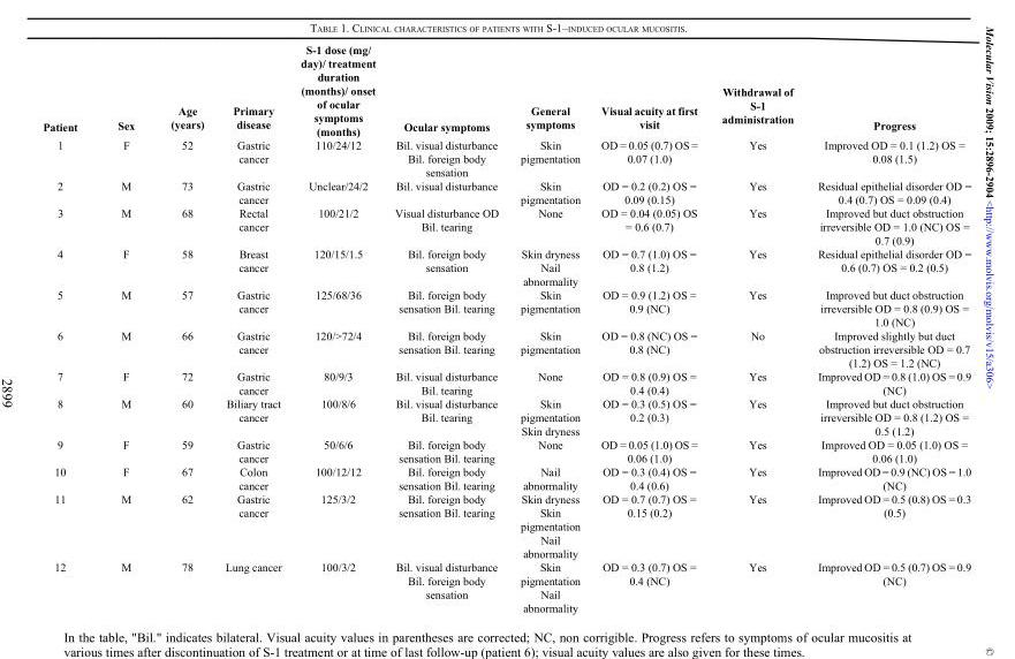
<table><thead><tr><td>Patient</td><td>Sex</td><td>Age (years)</td><td>Primary disease</td><td>S-1 dose (mg/ day)/ treatment duration (months)/ onset of ocular symptoms (months)</td><td>Ocular symptoms</td><td>General symptoms</td><td>Visual acuity at first visit</td><td>Withdrawal of S-1 administration</td><td>Progress</td></tr></thead><tbody><tr><td>1</td><td>F</td><td>52</td><td>Gastric cancer</td><td>110/24/12</td><td>Bil. visual disturbance Bil. foreign body sensation</td><td>Skin pigmentation</td><td>OD = 0.05 (0.7) OS = 0.07 (1.0)</td><td>Yes</td><td>Improved OD = 0.1 (1.2) OS = 0.08 (1.5)</td></tr><tr><td>2</td><td>M</td><td>73</td><td>Gastric cancer</td><td>Unclear/24/2</td><td>Bil. visual disturbance</td><td>Skin pigmentation</td><td>OD = 0.2 (0.2) OS = 0.09 (0.15)</td><td>Yes</td><td>Residual epithelial disorder OD = 0.4 (0.7) OS = 0.09 (0.4)</td></tr><tr><td>3</td><td>M</td><td>68</td><td>Rectal cancer</td><td>100/21/2</td><td>Visual disturbance OD Bil. tearing</td><td>None</td><td>OD = 0.04 (0.05) OS = 0.6 (0.7)</td><td>Yes</td><td>Improved but duct obstruction irreversible OD = 1.0 (NC) OS = 0.7 (0.9)</td></tr><tr><td>4</td><td>F</td><td>58</td><td>Breast cancer</td><td>120/15/1.5</td><td>Bil. foreign body sensation</td><td>Skin dryness Nail abnormality</td><td>OD = 0.7 (1.0) OS = 0.8 (1.2)</td><td>Yes</td><td>Residual epithelial disorder OD = 0.6 (0.7) OS = 0.2 (0.5)</td></tr><tr><td>5</td><td>M</td><td>57</td><td>Gastric cancer</td><td>125/68/36</td><td>Bil. foreign body sensation Bil. tearing</td><td>Skin pigmentation</td><td>OD = 0.9 (1.2) OS = 0.9 (NC)</td><td>Yes</td><td>Improved but duct obstruction irreversible OD = 0.8 (0.9) OS = 1.0 (NC)</td></tr><tr><td>6</td><td>M</td><td>66</td><td>Gastric cancer</td><td>120/&gt;72/4</td><td>Bil. foreign body sensation Bil. tearing</td><td>Skin pigmentation</td><td>OD = 0.8 (NC) OS = 0.8 (NC)</td><td>No</td><td>Improved slightly but duct obstruction irreversible OD = 0.7 (1.2) OS = 1.2 (NC)</td></tr><tr><td>7</td><td>F</td><td>72</td><td>Gastric cancer</td><td>80/9/3</td><td>Bil. visual disturbance Bil. tearing</td><td>None</td><td>OD = 0.8 (0.9) OS = 0.4 (0.4)</td><td>Yes</td><td>Improved OD = 0.8 (1.0) OS = 0.9 (NC)</td></tr><tr><td>8</td><td>M</td><td>60</td><td>Biliary tract cancer</td><td>100/8/6</td><td>Bil. visual disturbance Bil. tearing</td><td>Skin pigmentation Skin dryness</td><td>OD = 0.3 (0.5) OS = 0.2 (0.3)</td><td>Yes</td><td>Improved but duct obstruction irreversible OD = 0.8 (1.2) OS = 0.5 (1.2)</td></tr><tr><td>9</td><td>F</td><td>59</td><td>Gastric cancer</td><td>50/6/6</td><td>Bil. foreign body sensation Bil. tearing</td><td>None</td><td>OD = 0.05 (1.0) OS = 0.06 (1.0)</td><td>Yes</td><td>Improved OD = 0.05 (1.0) OS = 0.06 (1.0)</td></tr><tr><td>10</td><td>F</td><td>67</td><td>Colon cancer</td><td>100/12/12</td><td>Bil. foreign body sensation Bil. tearing</td><td>Nail abnormality</td><td>OD = 0.3 (0.4) OS = 0.4 (0.6)</td><td>Yes</td><td>Improved OD = 0.9 (NC) OS = 1.0 (NC)</td></tr><tr><td>11</td><td>M</td><td>62</td><td>Gastric cancer</td><td>125/3/2</td><td>Bil. foreign body sensation Bil. tearing</td><td>Skin dryness Skin pigmentation Nail abnormality</td><td>OD = 0.7 (0.7) OS = 0.15 (0.2)</td><td>Yes</td><td>Improved OD = 0.5 (0.8) OS = 0.3 (0.5)</td></tr><tr><td>12</td><td>M</td><td>78</td><td>Lung cancer</td><td>100/3/2</td><td>Bil. visual disturbance Bil. foreign body sensation</td><td>Skin pigmentation Nail abnormality</td><td>OD = 0.3 (0.7) OS = 0.4 (NC)</td><td>Yes</td><td>Improved OD = 0.5 (0.7) OS = 0.9 (NC)</td></tr></tbody></table>